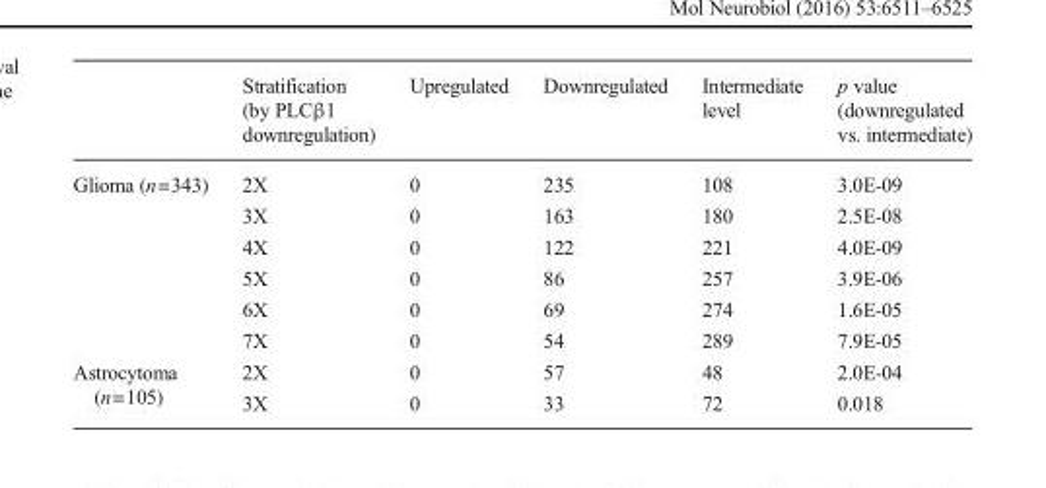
<table><thead><tr><td></td><td>Stratification (by PLCβ1 downregulation)</td><td>Upregulated</td><td>Downregulated</td><td>Intermediate level</td><td>p value (downregulated vs. intermediate)</td></tr></thead><tbody><tr><td rowspan="6">Glioma (n=343)</td><td>2X</td><td>0</td><td>235</td><td>108</td><td>3.0E-09</td></tr><tr><td>3X</td><td>0</td><td>163</td><td>180</td><td>2.5E-08</td></tr><tr><td>4X</td><td>0</td><td>122</td><td>221</td><td>4.0E-09</td></tr><tr><td>5X</td><td>0</td><td>86</td><td>257</td><td>3.9E-06</td></tr><tr><td>6X</td><td>0</td><td>69</td><td>274</td><td>1.6E-05</td></tr><tr><td>7X</td><td>0</td><td>54</td><td>289</td><td>7.9E-05</td></tr><tr><td rowspan="2">Astrocytoma (n=105)</td><td>2X</td><td>0</td><td>57</td><td>48</td><td>2.0E-04</td></tr><tr><td>3X</td><td>0</td><td>33</td><td>72</td><td>0.018</td></tr></tbody></table>